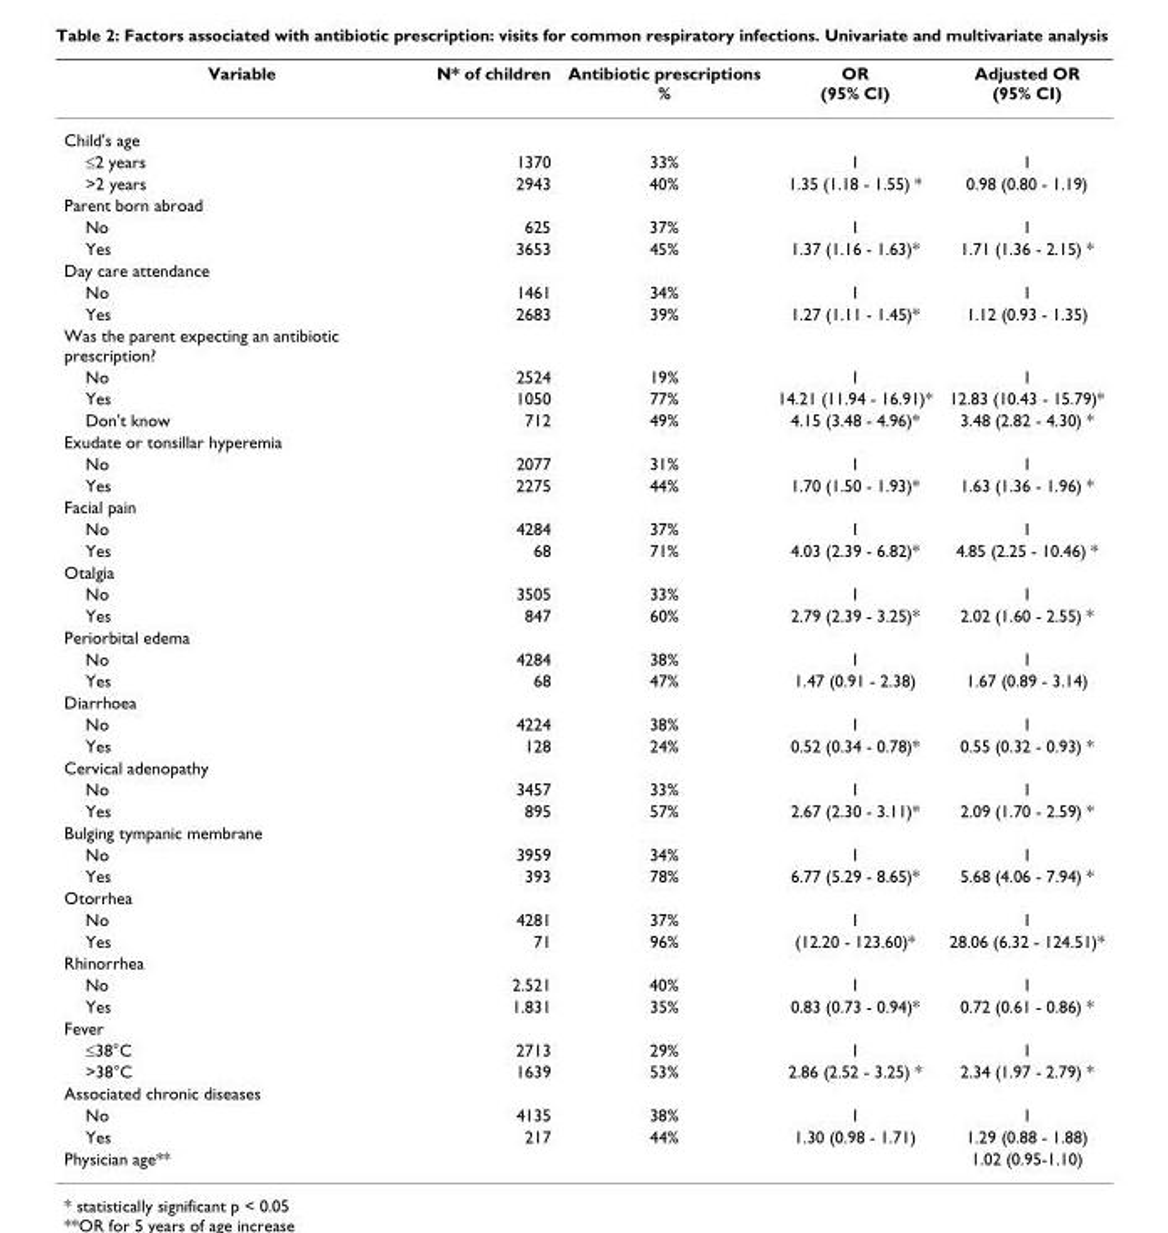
<table><thead><tr><td>Variable</td><td>N* of children</td><td>Antibiotic prescriptions %</td><td>OR (95% CI)</td><td>Adjusted OR (95% CI)</td></tr></thead><tbody><tr><td colspan="5">Child&#x27;s age</td></tr><tr><td>≤2 years</td><td>1370</td><td>33%</td><td>1</td><td>1</td></tr><tr><td>&gt;2 years</td><td>2943</td><td>40%</td><td>1.35 (1.18 - 1.55) *</td><td>0.98 (0.80 - 1.19)</td></tr><tr><td colspan="5">Parent born abroad</td></tr><tr><td>No</td><td>625</td><td>37%</td><td>1</td><td>1</td></tr><tr><td>Yes</td><td>3653</td><td>45%</td><td>1.37 (1.16 - 1.63)*</td><td>1.71 (1.36 - 2.15) *</td></tr><tr><td colspan="5">Day care attendance</td></tr><tr><td>No</td><td>1461</td><td>34%</td><td>1</td><td>1</td></tr><tr><td>Yes</td><td>2683</td><td>39%</td><td>1.27 (1.11 - 1.45)*</td><td>1.12 (0.93 - 1.35)</td></tr><tr><td colspan="5">Was the parent expecting an antibiotic prescription?</td></tr><tr><td>No</td><td>2524</td><td>19%</td><td>1</td><td>1</td></tr><tr><td>Yes</td><td>1050</td><td>77%</td><td>14.21 (11.94 - 16.91)*</td><td>12.83 (10.43 - 15.79)*</td></tr><tr><td>Don&#x27;t know</td><td>712</td><td>49%</td><td>4.15 (3.48 - 4.96)*</td><td>3.48 (2.82 - 4.30) *</td></tr><tr><td colspan="5">Exudate or tonsillar hyperemia</td></tr><tr><td>No</td><td>2077</td><td>31%</td><td>1</td><td>1</td></tr><tr><td>Yes</td><td>2275</td><td>44%</td><td>1.70 (1.50 - 1.93)*</td><td>1.63 (1.36 - 1.96) *</td></tr><tr><td colspan="5">Facial pain</td></tr><tr><td>No</td><td>4284</td><td>37%</td><td>1</td><td>1</td></tr><tr><td>Yes</td><td>68</td><td>71%</td><td>4.03 (2.39 - 6.82)*</td><td>4.85 (2.25 - 10.46) *</td></tr><tr><td colspan="5">Otalgia</td></tr><tr><td>No</td><td>3505</td><td>33%</td><td>1</td><td>1</td></tr><tr><td>Yes</td><td>847</td><td>60%</td><td>2.79 (2.39 - 3.25)*</td><td>2.02 (1.60 - 2.55) *</td></tr><tr><td colspan="5">Periorbital edema</td></tr><tr><td>No</td><td>4284</td><td>38%</td><td>1</td><td>1</td></tr><tr><td>Yes</td><td>68</td><td>47%</td><td>1.47 (0.91 - 2.38)</td><td>1.67 (0.89 - 3.14)</td></tr><tr><td colspan="5">Diarrhoea</td></tr><tr><td>No</td><td>4224</td><td>38%</td><td>1</td><td>1</td></tr><tr><td>Yes</td><td>128</td><td>24%</td><td>0.52 (0.34 - 0.78)*</td><td>0.55 (0.32 - 0.93) *</td></tr><tr><td colspan="5">Cervical adenopathy</td></tr><tr><td>No</td><td>3457</td><td>33%</td><td>1</td><td>1</td></tr><tr><td>Yes</td><td>895</td><td>57%</td><td>2.67 (2.30 - 3.11)*</td><td>2.09 (1.70 - 2.59) *</td></tr><tr><td colspan="5">Bulging tympanic membrane</td></tr><tr><td>No</td><td>3959</td><td>34%</td><td>1</td><td>1</td></tr><tr><td>Yes</td><td>393</td><td>78%</td><td>6.77 (5.29 - 8.65)*</td><td>5.68 (4.06 - 7.94) *</td></tr><tr><td colspan="5">Otorrhea</td></tr><tr><td>No</td><td>4281</td><td>37%</td><td>1</td><td>1</td></tr><tr><td>Yes</td><td>71</td><td>96%</td><td>(12.20 - 123.60)*</td><td>28.06 (6.32 - 124.51)*</td></tr><tr><td colspan="5">Rhinorrhea</td></tr><tr><td>No</td><td>2.521</td><td>40%</td><td>1</td><td>1</td></tr><tr><td>Yes</td><td>1.831</td><td>35%</td><td>0.83 (0.73 - 0.94)*</td><td>0.72 (0.61 - 0.86) *</td></tr><tr><td colspan="5">Fever</td></tr><tr><td>≤38°C</td><td>2713</td><td>29%</td><td>1</td><td>1</td></tr><tr><td>&gt;38°C</td><td>1639</td><td>53%</td><td>2.86 (2.52 - 3.25) *</td><td>2.34 (1.97 - 2.79) *</td></tr><tr><td colspan="5">Associated chronic diseases</td></tr><tr><td>No</td><td>4135</td><td>38%</td><td>1</td><td>1</td></tr><tr><td>Yes</td><td>217</td><td>44%</td><td>1.30 (0.98 - 1.71)</td><td>1.29 (0.88 - 1.88)</td></tr><tr><td>Physician age**</td><td></td><td></td><td></td><td>1.02 (0.95-1.10)</td></tr></tbody></table>